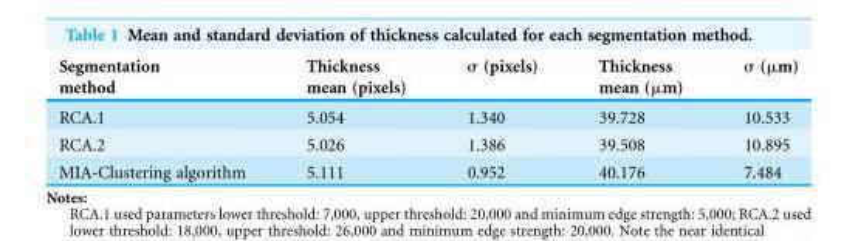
<table><thead><tr><td>Segmentation method</td><td>Thickness mean (pixels)</td><td>σ (pixels)</td><td>Thickness mean (μm)</td><td>σ (μm)</td></tr></thead><tbody><tr><td>RCA.1</td><td>5.054</td><td>1.340</td><td>39.728</td><td>10.533</td></tr><tr><td>RCA.2</td><td>5.026</td><td>1.386</td><td>39.508</td><td>10.895</td></tr><tr><td>MIA-Clustering algorithm</td><td>5.111</td><td>0.952</td><td>40.176</td><td>7.484</td></tr></tbody></table>